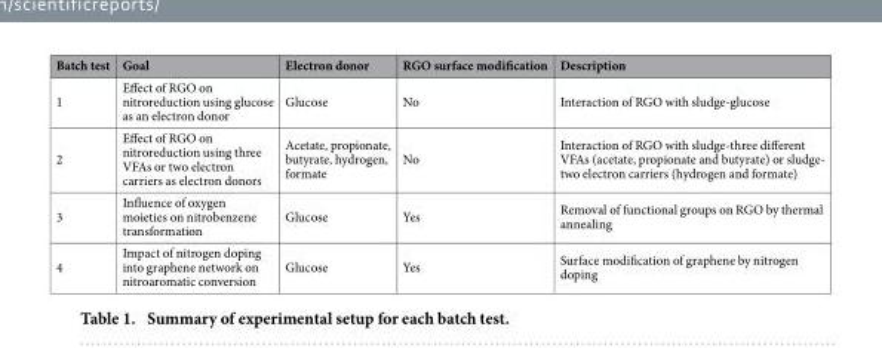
<table><thead><tr><td>Batch test</td><td>Goal</td><td>Electron donor</td><td>RGO surface modification</td><td>Description</td></tr></thead><tbody><tr><td>1</td><td>Effect of RGO on nitroreduction using glucose as an electron donor</td><td>Glucose</td><td>No</td><td>Interaction of RGO with sludge-glucose</td></tr><tr><td>2</td><td>Effect of RGO on nitroreduction using three VFAs or two electron carriers as electron donors</td><td>Acetate, propionate, butyrate, hydrogen, formate</td><td>No</td><td>Interaction of RGO with sludge-three different VFAs (acetate, propionate and butyrate) or sludge- two electron carriers (hydrogen and formate)</td></tr><tr><td>3</td><td>Influence of oxygen moieties on nitrobenzene transformation</td><td>Glucose</td><td>Yes</td><td>Removal of functional groups on RGO by thermal annealing</td></tr><tr><td>4</td><td>Impact of nitrogen doping into graphene network on nitroaromatic conversion</td><td>Glucose</td><td>Yes</td><td>Surface modification of graphene by nitrogen doping</td></tr></tbody></table>